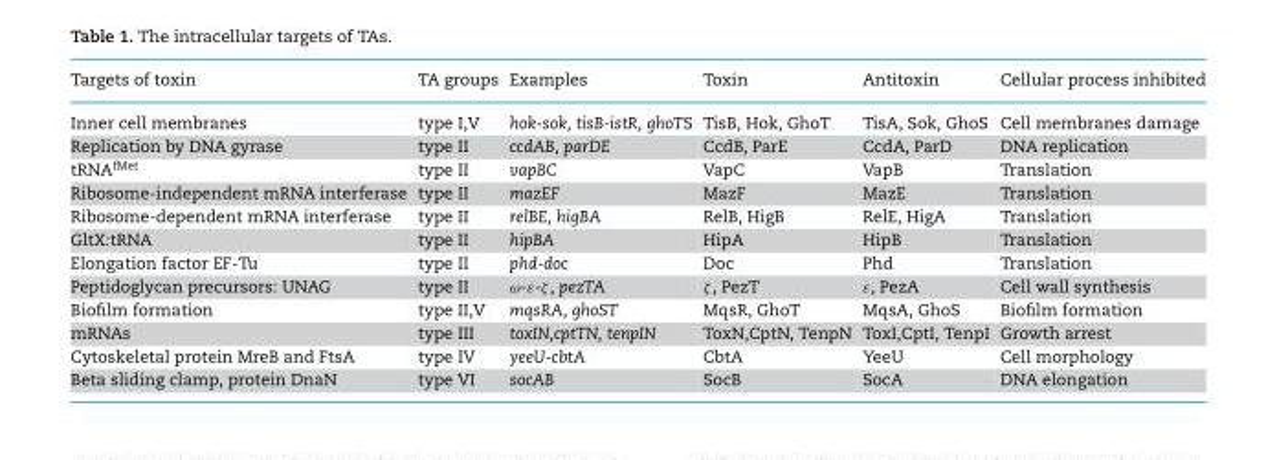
<table><thead><tr><td>Targets of toxin</td><td>TA groups</td><td>Examples</td><td>Toxin</td><td>Antitoxin</td><td>Cellular process inhibited</td></tr></thead><tbody><tr><td>Inner cell membranes</td><td>type I,V</td><td>hok-sok, tisB-istR, ghoTS</td><td>TisB, Hok, GhoT</td><td>TisA, Sok, GhoS</td><td>Cell membranes damage</td></tr><tr><td>Replication by DNA gyrase</td><td>type II</td><td>ccdAB, parDE</td><td>CcdB, ParE</td><td>CcdA, ParD</td><td>DNA replication</td></tr><tr><td>tRNA<sup>fMet</sup></td><td>type II</td><td>vapBC</td><td>VapC</td><td>VapB</td><td>Translation</td></tr><tr><td>Ribosome-independent mRNA interferase</td><td>type II</td><td>mazEF</td><td>MazF</td><td>MazE</td><td>Translation</td></tr><tr><td>Ribosome-dependent mRNA interferase</td><td>type II</td><td>relBE, higBA</td><td>RelB, HigB</td><td>RelE, HigA</td><td>Translation</td></tr><tr><td>GltX:tRNA</td><td>type II</td><td>hipBA</td><td>HipA</td><td>HipB</td><td>Translation</td></tr><tr><td>Elongation factor EF-Tu</td><td>type II</td><td>phd-doc</td><td>Doc</td><td>Phd</td><td>Translation</td></tr><tr><td>Peptidoglycan precursors: UNAG</td><td>type II</td><td>ω-ε-ζ, pezTA</td><td>ζ, PezT</td><td>ε, PezA</td><td>Cell wall synthesis</td></tr><tr><td>Biofilm formation</td><td>type II,V</td><td>mqsRA, ghoST</td><td>MqsR, GhoT</td><td>MqsA, GhoS</td><td>Biofilm formation</td></tr><tr><td>mRNAs</td><td>type III</td><td>toxIN,cptTN, tenpIN</td><td>ToxN,CptN, TenpN</td><td>ToxI,CptI, TenpI</td><td>Growth arrest</td></tr><tr><td>Cytoskeletal protein MreB and FtsA</td><td>type IV</td><td>yeeU-cbtA</td><td>CbtA</td><td>YeeU</td><td>Cell morphology</td></tr><tr><td>Beta sliding clamp, protein DnaN</td><td>type VI</td><td>socAB</td><td>SocB</td><td>SocA</td><td>DNA elongation</td></tr></tbody></table>